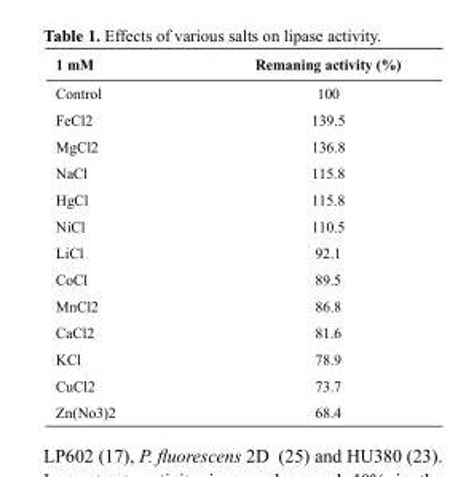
<table><thead><tr><td>1 mM</td><td>Remaning activity (%)</td></tr></thead><tbody><tr><td>Control</td><td>100</td></tr><tr><td>FeCl2</td><td>139.5</td></tr><tr><td>MgCl2</td><td>136.8</td></tr><tr><td>NaCl</td><td>115.8</td></tr><tr><td>HgCl</td><td>115.8</td></tr><tr><td>NiCl</td><td>110.5</td></tr><tr><td>LiCl</td><td>92.1</td></tr><tr><td>CoCl</td><td>89.5</td></tr><tr><td>MnCl2</td><td>86.8</td></tr><tr><td>CaCl2</td><td>81.6</td></tr><tr><td>KCl</td><td>78.9</td></tr><tr><td>CuCl2</td><td>73.7</td></tr><tr><td>Zn(No3)2</td><td>68.4</td></tr></tbody></table>